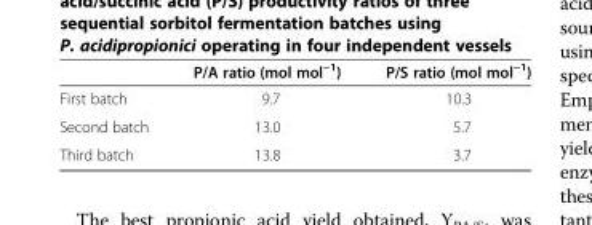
<table><thead><tr><td></td><td>P/A ratio (mol mol<sup>−1</sup>)</td><td>P/S ratio (mol mol<sup>−1</sup>)</td></tr></thead><tbody><tr><td>First batch</td><td>9.7</td><td>10.3</td></tr><tr><td>Second batch</td><td>13.0</td><td>5.7</td></tr><tr><td>Third batch</td><td>13.8</td><td>3.7</td></tr></tbody></table>